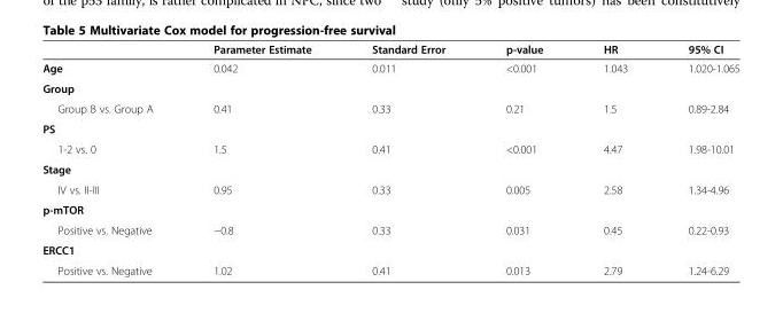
<table><thead><tr><td></td><td>Parameter Estimate</td><td>Standard Error</td><td>p-value</td><td>HR</td><td>95% CI</td></tr></thead><tbody><tr><td>Age</td><td>0.042</td><td>0.011</td><td>&lt;0.001</td><td>1.043</td><td>1.020-1.065</td></tr><tr><td colspan="6">Group</td></tr><tr><td>Group B vs. Group A</td><td>0.41</td><td>0.33</td><td>0.21</td><td>1.5</td><td>0.89-2.84</td></tr><tr><td colspan="6">PS</td></tr><tr><td>1-2 vs. 0</td><td>1.5</td><td>0.41</td><td>&lt;0.001</td><td>4.47</td><td>1.98-10.01</td></tr><tr><td colspan="6">Stage</td></tr><tr><td>IV vs. II-III</td><td>0.95</td><td>0.33</td><td>0.005</td><td>2.58</td><td>1.34-4.96</td></tr><tr><td colspan="6">p-mTOR</td></tr><tr><td>Positive vs. Negative</td><td>−0.8</td><td>0.33</td><td>0.031</td><td>0.45</td><td>0.22-0.93</td></tr><tr><td colspan="6">ERCC1</td></tr><tr><td>Positive vs. Negative</td><td>1.02</td><td>0.41</td><td>0.013</td><td>2.79</td><td>1.24-6.29</td></tr></tbody></table>